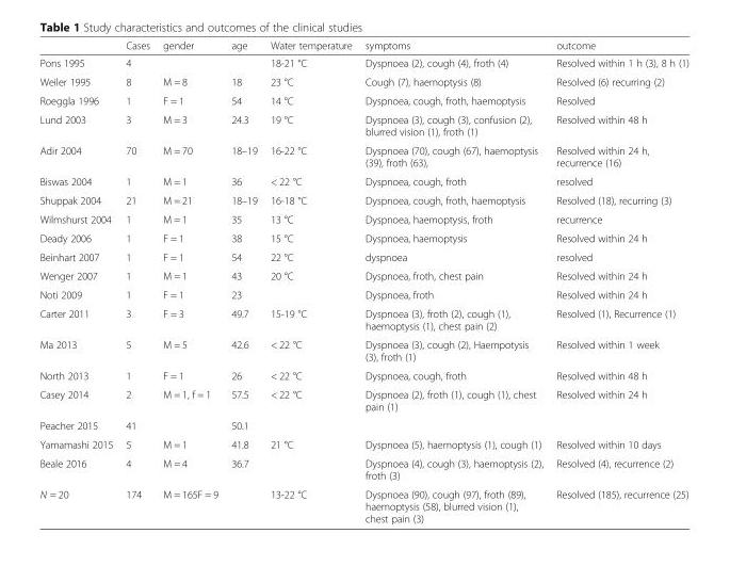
<table><thead><tr><td></td><td>Cases</td><td>gender</td><td>age</td><td>Water temperature</td><td>symptoms</td><td>outcome</td></tr></thead><tbody><tr><td>Pons 1995</td><td>4</td><td></td><td></td><td>18-21 °C</td><td>Dyspnoea (2), cough (4), froth (4)</td><td>Resolved within 1 h (3), 8 h (1)</td></tr><tr><td>Weiler 1995</td><td>8</td><td>M = 8</td><td>18</td><td>23 °C</td><td>Cough (7), haemoptysis (8)</td><td>Resolved (6) recurring (2)</td></tr><tr><td>Roeggla 1996</td><td>1</td><td>F = 1</td><td>54</td><td>14 °C</td><td>Dyspnoea, cough, froth, haemoptysis</td><td>Resolved</td></tr><tr><td>Lund 2003</td><td>3</td><td>M = 3</td><td>24.3</td><td>19 °C</td><td>Dyspnoea (3), cough (3), confusion (2), blurred vision (1), froth (1)</td><td>Resolved within 48 h</td></tr><tr><td>Adir 2004</td><td>70</td><td>M = 70</td><td>18–19</td><td>16-22 °C</td><td>Dyspnoea (70), cough (67), haemoptysis (39), froth (63),</td><td>Resolved within 24 h, recurrence (16)</td></tr><tr><td>Biswas 2004</td><td>1</td><td>M = 1</td><td>36</td><td>&lt; 22 °C</td><td>Dyspnoea, cough, froth</td><td>resolved</td></tr><tr><td>Shuppak 2004</td><td>21</td><td>M = 21</td><td>18–19</td><td>16-18 °C</td><td>Dyspnoea, cough, froth, haemoptysis</td><td>Resolved (18), recurring (3)</td></tr><tr><td>Wilmshurst 2004</td><td>1</td><td>M = 1</td><td>35</td><td>13 °C</td><td>Dyspnoea, haemoptysis, froth</td><td>recurrence</td></tr><tr><td>Deady 2006</td><td>1</td><td>F = 1</td><td>38</td><td>15 °C</td><td>Dyspnoea, haemoptysis</td><td>Resolved within 24 h</td></tr><tr><td>Beinhart 2007</td><td>1</td><td>F = 1</td><td>54</td><td>22 °C</td><td>dyspnoea</td><td>resolved</td></tr><tr><td>Wenger 2007</td><td>1</td><td>M = 1</td><td>43</td><td>20 °C</td><td>Dyspnoea, froth, chest pain</td><td>Resolved within 24 h</td></tr><tr><td>Noti 2009</td><td>1</td><td>F = 1</td><td>23</td><td></td><td>Dyspnoea, froth</td><td>Resolved within 24 h</td></tr><tr><td>Carter 2011</td><td>3</td><td>F = 3</td><td>49.7</td><td>15-19 °C</td><td>Dyspnoea (3), froth (2), cough (1), haemoptysis (1), chest pain (2)</td><td>Resolved (1), Recurrence (1)</td></tr><tr><td>Ma 2013</td><td>5</td><td>M = 5</td><td>42.6</td><td>&lt; 22 °C</td><td>Dyspnoea (3), cough (2), Haempotysis (3), froth (1)</td><td>Resolved within 1 week</td></tr><tr><td>North 2013</td><td>1</td><td>F = 1</td><td>26</td><td>&lt; 22 °C</td><td>Dyspnoea, cough, froth</td><td>Resolved within 48 h</td></tr><tr><td>Casey 2014</td><td>2</td><td>M = 1, f = 1</td><td>57.5</td><td>&lt; 22 °C</td><td>Dyspnoea (2), froth (1), cough (1), chest pain (1)</td><td>Resolved within 24 h</td></tr><tr><td>Peacher 2015</td><td>41</td><td></td><td>50.1</td><td></td><td></td><td></td></tr><tr><td>Yamamashi 2015</td><td>5</td><td>M = 1</td><td>41.8</td><td>21 °C</td><td>Dyspnoea (5), haemoptysis (1), cough (1)</td><td>Resolved within 10 days</td></tr><tr><td>Beale 2016</td><td>4</td><td>M = 4</td><td>36.7</td><td></td><td>Dyspnoea (4), cough (3), haemoptysis (2), froth (3)</td><td>Resolved (4), recurrence (2)</td></tr><tr><td>N = 20</td><td>174</td><td>M = 165F = 9</td><td></td><td>13-22 °C</td><td>Dyspnoea (90), cough (97), froth (89), haemoptysis (58), blurred vision (1), chest pain (3)</td><td>Resolved (185), recurrence (25)</td></tr></tbody></table>